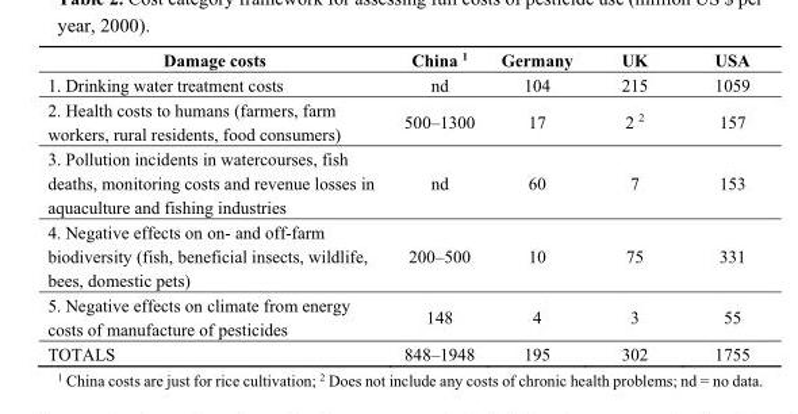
<table><thead><tr><td>Damage costs</td><td>China <sup>1</sup></td><td>Germany</td><td>UK</td><td>USA</td></tr></thead><tbody><tr><td>1. Drinking water treatment costs</td><td>nd</td><td>104</td><td>215</td><td>1059</td></tr><tr><td>2. Health costs to humans (farmers, farm workers, rural residents, food consumers)</td><td>500–1300</td><td>17</td><td>2 <sup>2</sup></td><td>157</td></tr><tr><td>3. Pollution incidents in watercourses, fish deaths, monitoring costs and revenue losses in aquaculture and fishing industries</td><td>nd</td><td>60</td><td>7</td><td>153</td></tr><tr><td>4. Negative effects on on- and off-farm biodiversity (fish, beneficial insects, wildlife, bees, domestic pets)</td><td>200–500</td><td>10</td><td>75</td><td>331</td></tr><tr><td>5. Negative effects on climate from energy costs of manufacture of pesticides</td><td>148</td><td>4</td><td>3</td><td>55</td></tr><tr><td>TOTALS</td><td>848–1948</td><td>195</td><td>302</td><td>1755</td></tr></tbody></table>